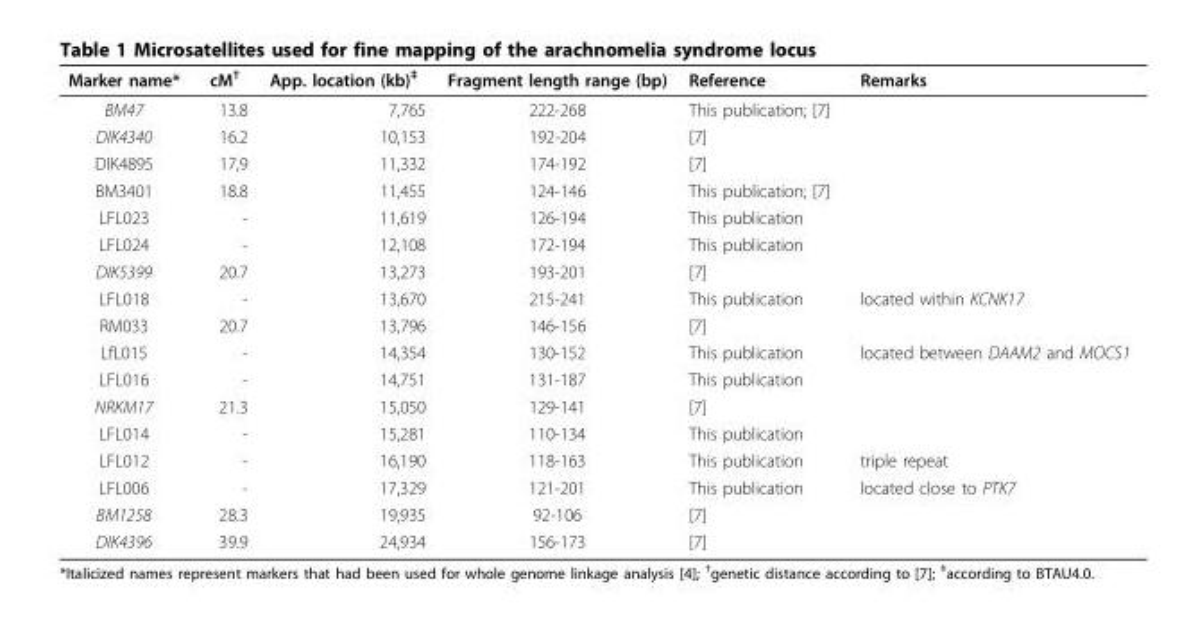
<table><thead><tr><td>Marker name*</td><td>cM<sup>†</sup></td><td>App. location (kb)<sup>‡</sup></td><td>Fragment length range (bp)</td><td>Reference</td><td>Remarks</td></tr></thead><tbody><tr><td>BM47</td><td>13.8</td><td>7,765</td><td>222-268</td><td>This publication; [7]</td><td></td></tr><tr><td>DIK4340</td><td>16.2</td><td>10,153</td><td>192-204</td><td>[7]</td><td></td></tr><tr><td>DIK4895</td><td>17,9</td><td>11,332</td><td>174-192</td><td>[7]</td><td></td></tr><tr><td>BM3401</td><td>18.8</td><td>11,455</td><td>124-146</td><td>This publication; [7]</td><td></td></tr><tr><td>LFL023</td><td>-</td><td>11,619</td><td>126-194</td><td>This publication</td><td></td></tr><tr><td>LFL024</td><td>-</td><td>12,108</td><td>172-194</td><td>This publication</td><td></td></tr><tr><td>DIK5399</td><td>20.7</td><td>13,273</td><td>193-201</td><td>[7]</td><td></td></tr><tr><td>LFL018</td><td>-</td><td>13,670</td><td>215-241</td><td>This publication</td><td>located within KCNK17</td></tr><tr><td>RM033</td><td>20.7</td><td>13,796</td><td>146-156</td><td>[7]</td><td></td></tr><tr><td>LfL015</td><td>-</td><td>14,354</td><td>130-152</td><td>This publication</td><td>located between DAAM2 and MOCS1</td></tr><tr><td>LFL016</td><td>-</td><td>14,751</td><td>131-187</td><td>This publication</td><td></td></tr><tr><td>NRKM17</td><td>21.3</td><td>15,050</td><td>129-141</td><td>[7]</td><td></td></tr><tr><td>LFL014</td><td>-</td><td>15,281</td><td>110-134</td><td>This publication</td><td></td></tr><tr><td>LFL012</td><td>-</td><td>16,190</td><td>118-163</td><td>This publication</td><td>triple repeat</td></tr><tr><td>LFL006</td><td>-</td><td>17,329</td><td>121-201</td><td>This publication</td><td>located close to PTK7</td></tr><tr><td>BM1258</td><td>28.3</td><td>19,935</td><td>92-106</td><td>[7]</td><td></td></tr><tr><td>DIK4396</td><td>39.9</td><td>24,934</td><td>156-173</td><td>[7]</td><td></td></tr></tbody></table>